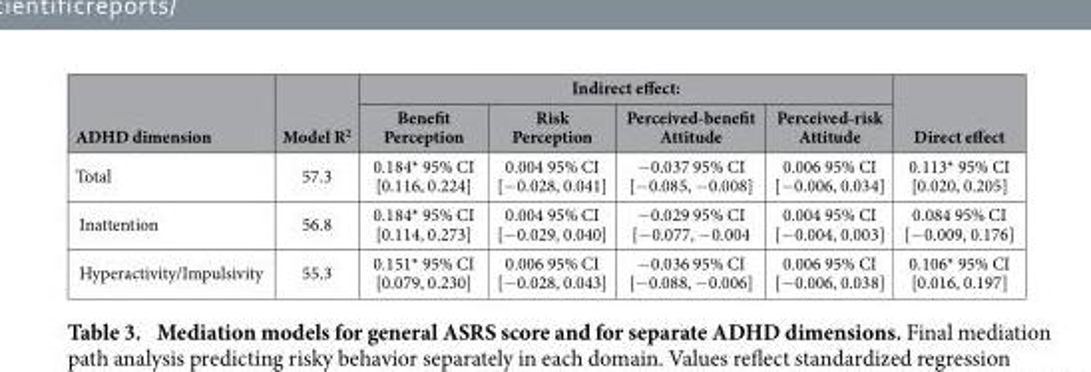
<table><thead><tr><td rowspan="2">ADHD dimension</td><td rowspan="2">Model R<sup>2</sup></td><td colspan="4">Indirect effect:</td><td rowspan="2">Direct effect</td></tr><tr><td>Benefit Perception</td><td>Risk Perception</td><td>Perceived-benefit Attitude</td><td>Perceived-risk Attitude</td></tr></thead><tbody><tr><td>Total</td><td>57.3</td><td>0.184* 95% CI [0.116, 0.224]</td><td>0.004 95% CI [− 0.028, 0.041]</td><td>− 0.037 95% CI [− 0.085, − 0.008]</td><td>0.006 95% CI [− 0.006, 0.034]</td><td>0.113* 95% CI [0.020, 0.205]</td></tr><tr><td>Inattention</td><td>56.8</td><td>0.184* 95% CI [0.114, 0.273]</td><td>0.004 95% CI [− 0.029, 0.040]</td><td>− 0.029 95% CI [− 0.077, − 0.004</td><td>0.004 95% CI [− 0.004, 0.003]</td><td>0.084 95% CI [− 0.009, 0.176]</td></tr><tr><td>Hyperactivity/Impulsivity</td><td>55.3</td><td>0.151* 95% CI [0.079, 0.230]</td><td>0.006 95% CI [− 0.028, 0.043]</td><td>− 0.036 95% CI [− 0.088, − 0.006]</td><td>0.006 95% CI [− 0.006, 0.038]</td><td>0.106* 95% CI [0.016, 0.197]</td></tr></tbody></table>